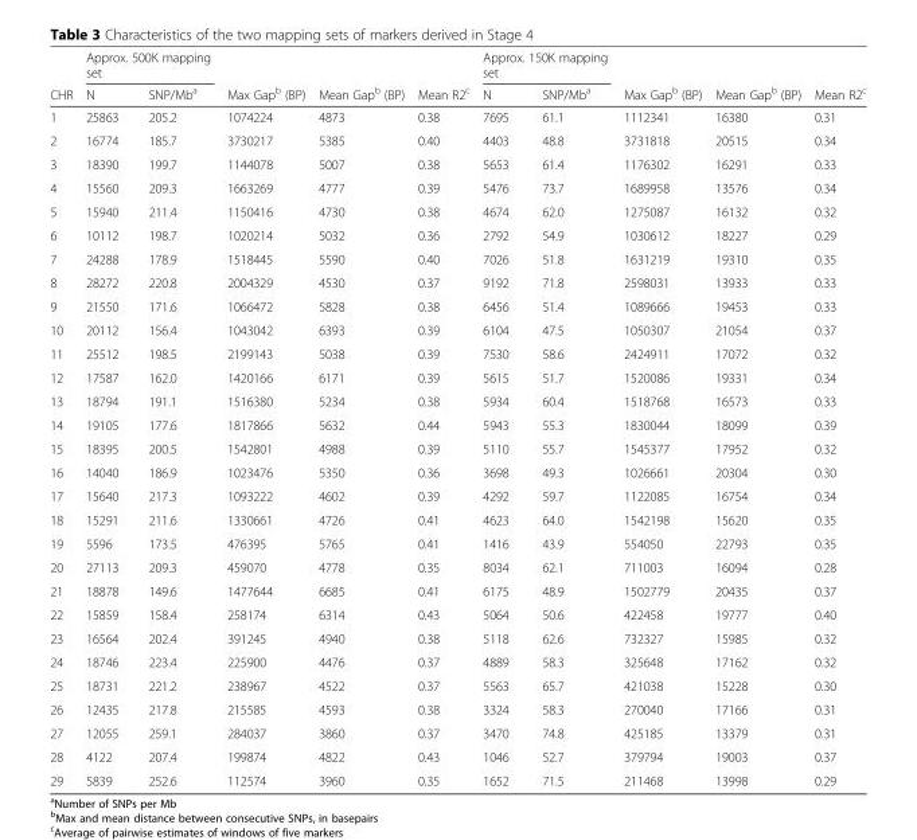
<table><thead><tr><td rowspan="2">CHR</td><td colspan="2">Approx. 500K mapping set</td><td rowspan="2">Max Gap<sup>b</sup> (BP)</td><td rowspan="2">Mean Gap<sup>b</sup> (BP)</td><td rowspan="2">Mean R2<sup>c</sup></td><td colspan="2">Approx. 150K mapping set</td><td rowspan="2">Max Gap<sup>b</sup> (BP)</td><td rowspan="2">Mean Gap<sup>b</sup> (BP)</td><td rowspan="2">Mean R2<sup>c</sup></td></tr><tr><td>N</td><td>SNP/Mb<sup>a</sup></td><td>N</td><td>SNP/Mb<sup>a</sup></td></tr></thead><tbody><tr><td>1</td><td>25863</td><td>205.2</td><td>1074224</td><td>4873</td><td>0.38</td><td>7695</td><td>61.1</td><td>1112341</td><td>16380</td><td>0.31</td></tr><tr><td>2</td><td>16774</td><td>185.7</td><td>3730217</td><td>5385</td><td>0.40</td><td>4403</td><td>48.8</td><td>3731818</td><td>20515</td><td>0.34</td></tr><tr><td>3</td><td>18390</td><td>199.7</td><td>1144078</td><td>5007</td><td>0.38</td><td>5653</td><td>61.4</td><td>1176302</td><td>16291</td><td>0.33</td></tr><tr><td>4</td><td>15560</td><td>209.3</td><td>1663269</td><td>4777</td><td>0.39</td><td>5476</td><td>73.7</td><td>1689958</td><td>13576</td><td>0.34</td></tr><tr><td>5</td><td>15940</td><td>211.4</td><td>1150416</td><td>4730</td><td>0.38</td><td>4674</td><td>62.0</td><td>1275087</td><td>16132</td><td>0.32</td></tr><tr><td>6</td><td>10112</td><td>198.7</td><td>1020214</td><td>5032</td><td>0.36</td><td>2792</td><td>54.9</td><td>1030612</td><td>18227</td><td>0.29</td></tr><tr><td>7</td><td>24288</td><td>178.9</td><td>1518445</td><td>5590</td><td>0.40</td><td>7026</td><td>51.8</td><td>1631219</td><td>19310</td><td>0.35</td></tr><tr><td>8</td><td>28272</td><td>220.8</td><td>2004329</td><td>4530</td><td>0.37</td><td>9192</td><td>71.8</td><td>2598031</td><td>13933</td><td>0.33</td></tr><tr><td>9</td><td>21550</td><td>171.6</td><td>1066472</td><td>5828</td><td>0.38</td><td>6456</td><td>51.4</td><td>1089666</td><td>19453</td><td>0.33</td></tr><tr><td>10</td><td>20112</td><td>156.4</td><td>1043042</td><td>6393</td><td>0.39</td><td>6104</td><td>47.5</td><td>1050307</td><td>21054</td><td>0.37</td></tr><tr><td>11</td><td>25512</td><td>198.5</td><td>2199143</td><td>5038</td><td>0.39</td><td>7530</td><td>58.6</td><td>2424911</td><td>17072</td><td>0.32</td></tr><tr><td>12</td><td>17587</td><td>162.0</td><td>1420166</td><td>6171</td><td>0.39</td><td>5615</td><td>51.7</td><td>1520086</td><td>19331</td><td>0.34</td></tr><tr><td>13</td><td>18794</td><td>191.1</td><td>1516380</td><td>5234</td><td>0.38</td><td>5934</td><td>60.4</td><td>1518768</td><td>16573</td><td>0.33</td></tr><tr><td>14</td><td>19105</td><td>177.6</td><td>1817866</td><td>5632</td><td>0.44</td><td>5943</td><td>55.3</td><td>1830044</td><td>18099</td><td>0.39</td></tr><tr><td>15</td><td>18395</td><td>200.5</td><td>1542801</td><td>4988</td><td>0.39</td><td>5110</td><td>55.7</td><td>1545377</td><td>17952</td><td>0.32</td></tr><tr><td>16</td><td>14040</td><td>186.9</td><td>1023476</td><td>5350</td><td>0.36</td><td>3698</td><td>49.3</td><td>1026661</td><td>20304</td><td>0.30</td></tr><tr><td>17</td><td>15640</td><td>217.3</td><td>1093222</td><td>4602</td><td>0.39</td><td>4292</td><td>59.7</td><td>1122085</td><td>16754</td><td>0.34</td></tr><tr><td>18</td><td>15291</td><td>211.6</td><td>1330661</td><td>4726</td><td>0.41</td><td>4623</td><td>64.0</td><td>1542198</td><td>15620</td><td>0.35</td></tr><tr><td>19</td><td>5596</td><td>173.5</td><td>476395</td><td>5765</td><td>0.41</td><td>1416</td><td>43.9</td><td>554050</td><td>22793</td><td>0.35</td></tr><tr><td>20</td><td>27113</td><td>209.3</td><td>459070</td><td>4778</td><td>0.35</td><td>8034</td><td>62.1</td><td>711003</td><td>16094</td><td>0.28</td></tr><tr><td>21</td><td>18878</td><td>149.6</td><td>1477644</td><td>6685</td><td>0.41</td><td>6175</td><td>48.9</td><td>1502779</td><td>20435</td><td>0.37</td></tr><tr><td>22</td><td>15859</td><td>158.4</td><td>258174</td><td>6314</td><td>0.43</td><td>5064</td><td>50.6</td><td>422458</td><td>19777</td><td>0.40</td></tr><tr><td>23</td><td>16564</td><td>202.4</td><td>391245</td><td>4940</td><td>0.38</td><td>5118</td><td>62.6</td><td>732327</td><td>15985</td><td>0.32</td></tr><tr><td>24</td><td>18746</td><td>223.4</td><td>225900</td><td>4476</td><td>0.37</td><td>4889</td><td>58.3</td><td>325648</td><td>17162</td><td>0.32</td></tr><tr><td>25</td><td>18731</td><td>221.2</td><td>238967</td><td>4522</td><td>0.37</td><td>5563</td><td>65.7</td><td>421038</td><td>15228</td><td>0.30</td></tr><tr><td>26</td><td>12435</td><td>217.8</td><td>215585</td><td>4593</td><td>0.38</td><td>3324</td><td>58.3</td><td>270040</td><td>17166</td><td>0.31</td></tr><tr><td>27</td><td>12055</td><td>259.1</td><td>284037</td><td>3860</td><td>0.37</td><td>3470</td><td>74.8</td><td>425185</td><td>13379</td><td>0.31</td></tr><tr><td>28</td><td>4122</td><td>207.4</td><td>199874</td><td>4822</td><td>0.43</td><td>1046</td><td>52.7</td><td>379794</td><td>19003</td><td>0.37</td></tr><tr><td>29</td><td>5839</td><td>252.6</td><td>112574</td><td>3960</td><td>0.35</td><td>1652</td><td>71.5</td><td>211468</td><td>13998</td><td>0.29</td></tr></tbody></table>